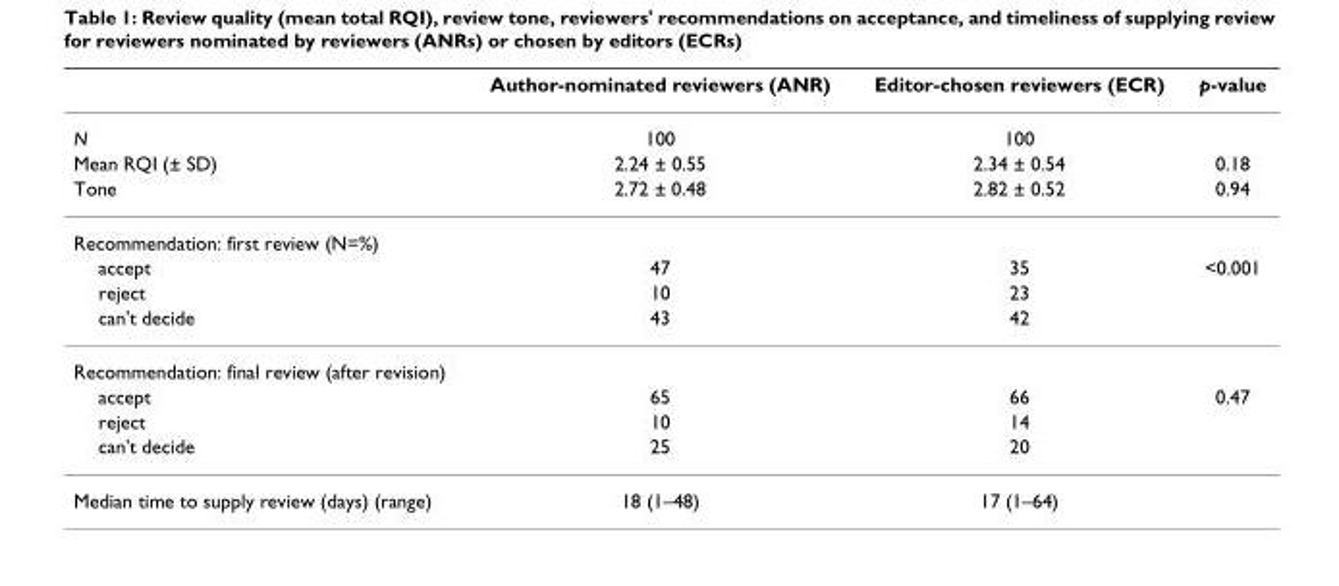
<table><thead><tr><td></td><td>Author-nominated reviewers (ANR)</td><td>Editor-chosen reviewers (ECR)</td><td>p-value</td></tr></thead><tbody><tr><td>N</td><td>100</td><td>100</td><td></td></tr><tr><td>Mean RQI (± SD)</td><td>2.24 ± 0.55</td><td>2.34 ± 0.54</td><td>0.18</td></tr><tr><td>Tone</td><td>2.72 ± 0.48</td><td>2.82 ± 0.52</td><td>0.94</td></tr><tr><td colspan="4">Recommendation: first review (N=%)</td></tr><tr><td>accept</td><td>47</td><td>35</td><td>&lt;0.001</td></tr><tr><td>reject</td><td>10</td><td>23</td><td></td></tr><tr><td>can&#x27;t decide</td><td>43</td><td>42</td><td></td></tr><tr><td colspan="4">Recommendation: final review (after revision)</td></tr><tr><td>accept</td><td>65</td><td>66</td><td>0.47</td></tr><tr><td>reject</td><td>10</td><td>14</td><td></td></tr><tr><td>can&#x27;t decide</td><td>25</td><td>20</td><td></td></tr><tr><td>Median time to supply review (days) (range)</td><td>18 (1–48)</td><td>17 (1–64)</td><td></td></tr></tbody></table>